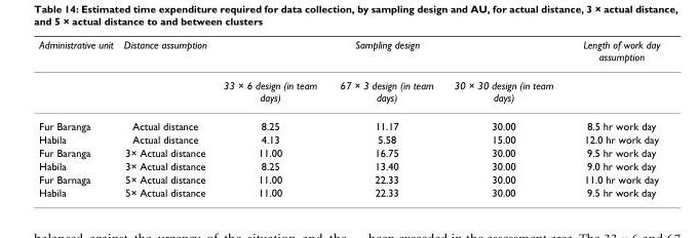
<table><thead><tr><td rowspan="2">Administrative unit</td><td rowspan="2">Distance assumption</td><td colspan="3">Sampling design</td><td rowspan="2">Length of work day assumption</td></tr><tr><td>33 × 6 design (in team days)</td><td>67 × 3 design (in team days)</td><td>30 × 30 design (in team days)</td></tr></thead><tbody><tr><td>Fur Baranga</td><td>Actual distance</td><td>8.25</td><td>11.17</td><td>30.00</td><td>8.5 hr work day</td></tr><tr><td>Habila</td><td>Actual distance</td><td>4.13</td><td>5.58</td><td>15.00</td><td>12.0 hr work day</td></tr><tr><td>Fur Baranga</td><td>3× Actual distance</td><td>11.00</td><td>16.75</td><td>30.00</td><td>9.5 hr work day</td></tr><tr><td>Habila</td><td>3× Actual distance</td><td>8.25</td><td>13.40</td><td>30.00</td><td>9.0 hr work day</td></tr><tr><td>Fur Barnaga</td><td>5× Actual distance</td><td>11.00</td><td>22.33</td><td>30.00</td><td>11.0 hr work day</td></tr><tr><td>Habila</td><td>5× Actual distance</td><td>11.00</td><td>22.33</td><td>30.00</td><td>9.5 hr work day</td></tr></tbody></table>